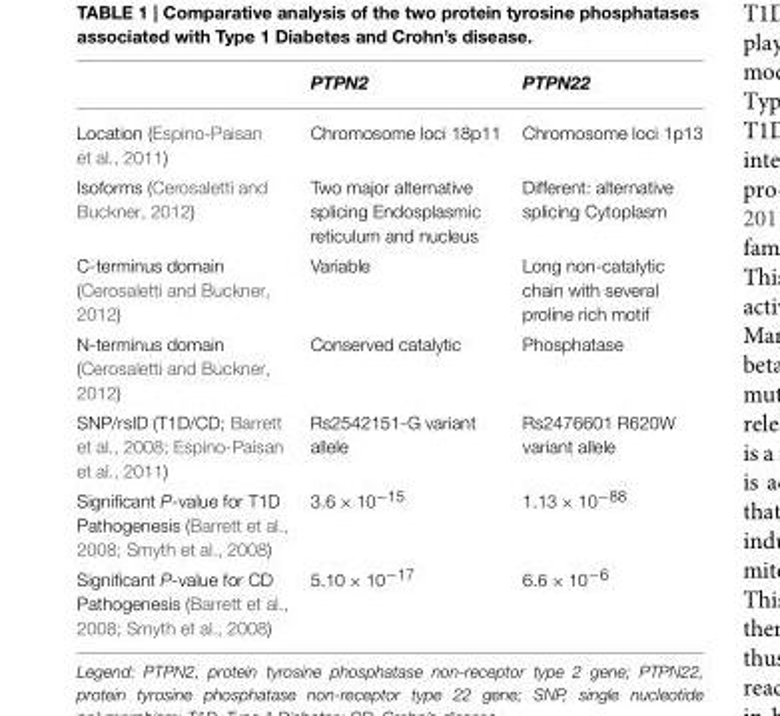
<table><thead><tr><td></td><td>PTPN2</td><td>PTPN22</td></tr></thead><tbody><tr><td>Location (Espino-Paisan et al., 2011)</td><td>Chromosome loci 18p11</td><td>Chromosome loci 1p13</td></tr><tr><td>Isoforms (Cerosaletti and Buckner, 2012)</td><td>Two major alternative splicing Endosplasmic reticulum and nucleus</td><td>Different: alternative splicing Cytoplasm</td></tr><tr><td>C-terminus domain (Cerosaletti and Buckner, 2012)</td><td>Variable</td><td>Long non-catalytic chain with several proline rich motif</td></tr><tr><td>N-terminus domain (Cerosaletti and Buckner, 2012)</td><td>Conserved catalytic</td><td>Phosphatase</td></tr><tr><td>SNP/rsID (T1D/CD; Barrett et al., 2008; Espino-Paisan et al., 2011)</td><td>Rs2542151-G variant allele</td><td>Rs2476601 R620W variant allele</td></tr><tr><td>Significant P-value for T1D Pathogenesis (Barrett et al., 2008; Smyth et al., 2008)</td><td>3.6 × 10<sup>−15</sup></td><td>1.13 × 10<sup>−88</sup></td></tr><tr><td>Significant P-value for CD Pathogenesis (Barrett et al., 2008; Smyth et al., 2008)</td><td>5.10 × 10<sup>−17</sup></td><td>6.6 × 10<sup>−6</sup></td></tr></tbody></table>